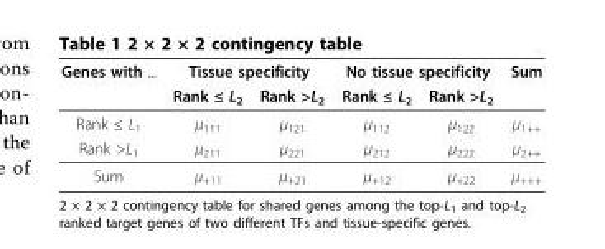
<table><thead><tr><td rowspan="2">Genes with ...</td><td colspan="2">Tissue specificity</td><td colspan="2">No tissue specificity</td><td rowspan="2">Sum</td></tr><tr><td>Rank ≤ L<sub>2</sub></td><td>Rank &gt;L<sub>2</sub></td><td>Rank ≤ L<sub>2</sub></td><td>Rank &gt;L<sub>2</sub></td></tr></thead><tbody><tr><td>Rank ≤ L<sub>1</sub></td><td>μ<sub>111</sub></td><td>μ<sub>121</sub></td><td>μ<sub>112</sub></td><td>μ<sub>122</sub></td><td>μ<sub>1++</sub></td></tr><tr><td>Rank &gt;L<sub>1</sub></td><td>μ<sub>211</sub></td><td>μ<sub>221</sub></td><td>μ<sub>212</sub></td><td>μ<sub>222</sub></td><td>μ<sub>2++</sub></td></tr><tr><td>Sum</td><td>μ<sub>+11</sub></td><td>μ<sub>+21</sub></td><td>μ<sub>+12</sub></td><td>μ<sub>+22</sub></td><td>μ<sub>+++</sub></td></tr></tbody></table>